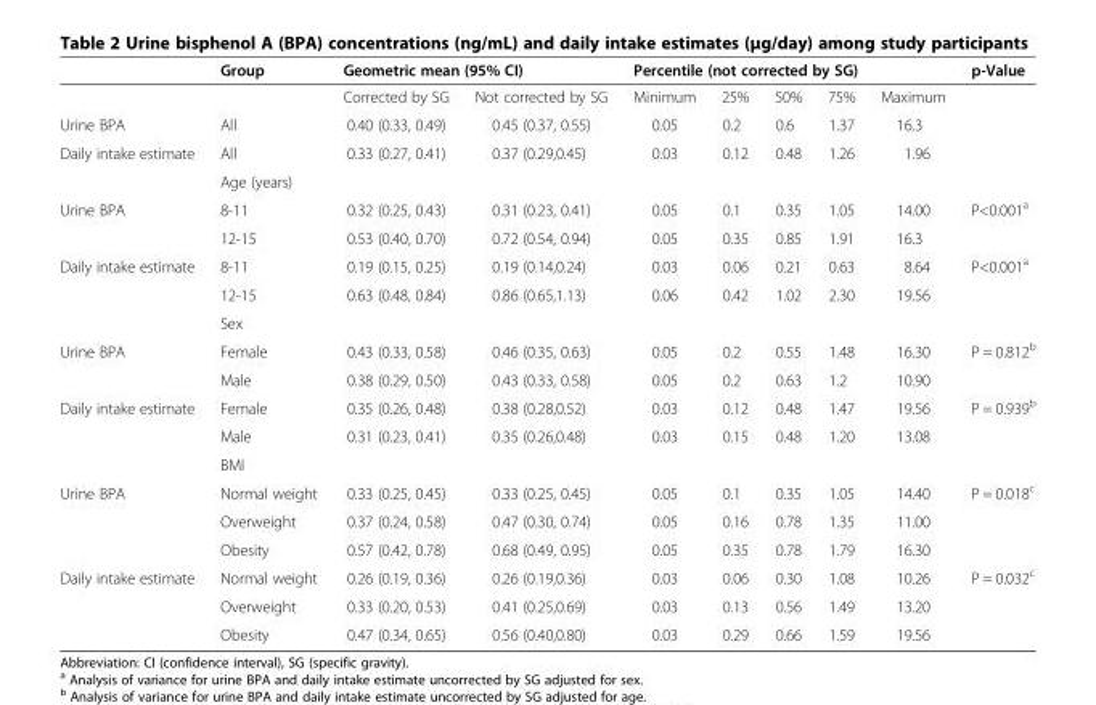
<table><thead><tr><td rowspan="2"></td><td rowspan="2">Group</td><td colspan="2">Geometric mean (95% CI)</td><td colspan="5">Percentile (not corrected by SG)</td><td rowspan="2">p-Value</td></tr><tr><td>Corrected by SG</td><td>Not corrected by SG</td><td>Minimum</td><td>25%</td><td>50%</td><td>75%</td><td>Maximum</td></tr></thead><tbody><tr><td>Urine BPA</td><td>All</td><td>0.40 (0.33, 0.49)</td><td>0.45 (0.37, 0.55)</td><td>0.05</td><td>0.2</td><td>0.6</td><td>1.37</td><td>16.3</td><td></td></tr><tr><td rowspan="2">Daily intake estimate</td><td>All</td><td>0.33 (0.27, 0.41)</td><td>0.37 (0.29,0.45)</td><td>0.03</td><td>0.12</td><td>0.48</td><td>1.26</td><td>1.96</td><td></td></tr><tr><td>Age (years)</td><td></td><td></td><td></td><td></td><td></td><td></td><td></td><td></td></tr><tr><td rowspan="2">Urine BPA</td><td>8-11</td><td>0.32 (0.25, 0.43)</td><td>0.31 (0.23, 0.41)</td><td>0.05</td><td>0.1</td><td>0.35</td><td>1.05</td><td>14.00</td><td>P&lt;0.001<sup>a</sup></td></tr><tr><td>12-15</td><td>0.53 (0.40, 0.70)</td><td>0.72 (0.54, 0.94)</td><td>0.05</td><td>0.35</td><td>0.85</td><td>1.91</td><td>16.3</td><td></td></tr><tr><td rowspan="3">Daily intake estimate</td><td>8-11</td><td>0.19 (0.15, 0.25)</td><td>0.19 (0.14,0.24)</td><td>0.03</td><td>0.06</td><td>0.21</td><td>0.63</td><td>8.64</td><td>P&lt;0.001<sup>a</sup></td></tr><tr><td>12-15</td><td>0.63 (0.48, 0.84)</td><td>0.86 (0.65,1.13)</td><td>0.06</td><td>0.42</td><td>1.02</td><td>2.30</td><td>19.56</td><td></td></tr><tr><td>Sex</td><td></td><td></td><td></td><td></td><td></td><td></td><td></td><td></td></tr><tr><td rowspan="2">Urine BPA</td><td>Female</td><td>0.43 (0.33, 0.58)</td><td>0.46 (0.35, 0.63)</td><td>0.05</td><td>0.2</td><td>0.55</td><td>1.48</td><td>16.30</td><td>P = 0.812<sup>b</sup></td></tr><tr><td>Male</td><td>0.38 (0.29, 0.50)</td><td>0.43 (0.33, 0.58)</td><td>0.05</td><td>0.2</td><td>0.63</td><td>1.2</td><td>10.90</td><td></td></tr><tr><td rowspan="3">Daily intake estimate</td><td>Female</td><td>0.35 (0.26, 0.48)</td><td>0.38 (0.28,0.52)</td><td>0.03</td><td>0.12</td><td>0.48</td><td>1.47</td><td>19.56</td><td>P = 0.939<sup>b</sup></td></tr><tr><td>Male</td><td>0.31 (0.23, 0.41)</td><td>0.35 (0.26,0.48)</td><td>0.03</td><td>0.15</td><td>0.48</td><td>1.20</td><td>13.08</td><td></td></tr><tr><td>BMI</td><td></td><td></td><td></td><td></td><td></td><td></td><td></td><td></td></tr><tr><td rowspan="3">Urine BPA</td><td>Normal weight</td><td>0.33 (0.25, 0.45)</td><td>0.33 (0.25, 0.45)</td><td>0.05</td><td>0.1</td><td>0.35</td><td>1.05</td><td>14.40</td><td>P = 0.018<sup>c</sup></td></tr><tr><td>Overweight</td><td>0.37 (0.24, 0.58)</td><td>0.47 (0.30, 0.74)</td><td>0.05</td><td>0.16</td><td>0.78</td><td>1.35</td><td>11.00</td><td></td></tr><tr><td>Obesity</td><td>0.57 (0.42, 0.78)</td><td>0.68 (0.49, 0.95)</td><td>0.05</td><td>0.35</td><td>0.78</td><td>1.79</td><td>16.30</td><td></td></tr><tr><td rowspan="3">Daily intake estimate</td><td>Normal weight</td><td>0.26 (0.19, 0.36)</td><td>0.26 (0.19,0.36)</td><td>0.03</td><td>0.06</td><td>0.30</td><td>1.08</td><td>10.26</td><td>P = 0.032<sup>c</sup></td></tr><tr><td>Overweight</td><td>0.33 (0.20, 0.53)</td><td>0.41 (0.25,0.69)</td><td>0.03</td><td>0.13</td><td>0.56</td><td>1.49</td><td>13.20</td><td></td></tr><tr><td>Obesity</td><td>0.47 (0.34, 0.65)</td><td>0.56 (0.40,0.80)</td><td>0.03</td><td>0.29</td><td>0.66</td><td>1.59</td><td>19.56</td><td></td></tr></tbody></table>